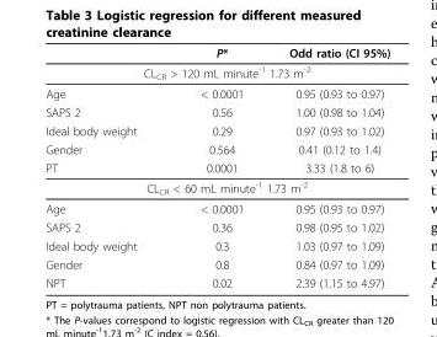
<table><thead><tr><td></td><td>P*</td><td>Odd ratio (CI 95%)</td></tr></thead><tbody><tr><td colspan="3">CL<sub>CR</sub> &gt; 120 mL minute<sup>-1</sup> 1.73 m<sup>-2</sup></td></tr><tr><td>Age</td><td>&lt; 0.0001</td><td>0.95 (0.93 to 0.97)</td></tr><tr><td>SAPS 2</td><td>0.56</td><td>1.00 (0.98 to 1.04)</td></tr><tr><td>Ideal body weight</td><td>0.29</td><td>0.97 (0.93 to 1.02)</td></tr><tr><td>Gender</td><td>0.564</td><td>0.41 (0.12 to 1.4)</td></tr><tr><td>PT</td><td>0.0001</td><td>3.33 (1.8 to 6)</td></tr><tr><td colspan="3">CL<sub>CR</sub> &lt; 60 mL minute<sup>-1</sup> 1.73 m<sup>-2</sup></td></tr><tr><td>Age</td><td>&lt; 0.0001</td><td>0.95 (0.93 to 0.97)</td></tr><tr><td>SAPS 2</td><td>0.36</td><td>0.98 (0.95 to 1.02)</td></tr><tr><td>Ideal body weight</td><td>0.3</td><td>1.03 (0.97 to 1.09)</td></tr><tr><td>Gender</td><td>0.8</td><td>0.84 (0.97 to 1.09)</td></tr><tr><td>NPT</td><td>0.02</td><td>2.39 (1.15 to 4.97)</td></tr></tbody></table>